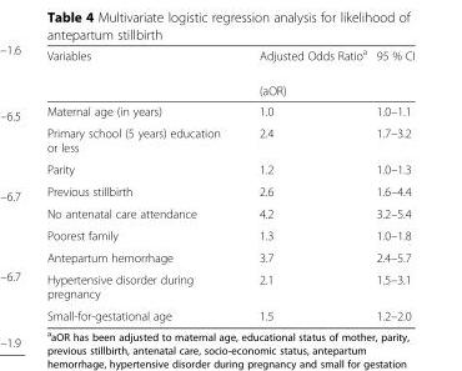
<table><thead><tr><td rowspan="2">Variables</td><td rowspan="2">Adjusted Odds Ratio<sup>a</sup> (aOR)</td><td rowspan="2">95 % CI</td></tr><tr></tr></thead><tbody><tr><td>Maternal age (in years)</td><td>1.0</td><td>1.0–1.1</td></tr><tr><td>Primary school (5 years) education or less</td><td>2.4</td><td>1.7–3.2</td></tr><tr><td>Parity</td><td>1.2</td><td>1.0–1.3</td></tr><tr><td>Previous stillbirth</td><td>2.6</td><td>1.6–4.4</td></tr><tr><td>No antenatal care attendance</td><td>4.2</td><td>3.2–5.4</td></tr><tr><td>Poorest family</td><td>1.3</td><td>1.0–1.8</td></tr><tr><td>Antepartum hemorrhage</td><td>3.7</td><td>2.4–5.7</td></tr><tr><td>Hypertensive disorder during pregnancy</td><td>2.1</td><td>1.5–3.1</td></tr><tr><td>Small-for-gestational age</td><td>1.5</td><td>1.2–2.0</td></tr></tbody></table>